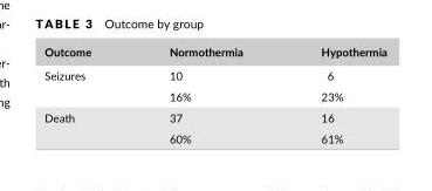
<table><thead><tr><td>Outcome</td><td>Normothermia</td><td>Hypothermia</td></tr></thead><tbody><tr><td rowspan="2">Seizures</td><td>10</td><td>6</td></tr><tr><td>16%</td><td>23%</td></tr><tr><td rowspan="2">Death</td><td>37</td><td>16</td></tr><tr><td>60%</td><td>61%</td></tr></tbody></table>